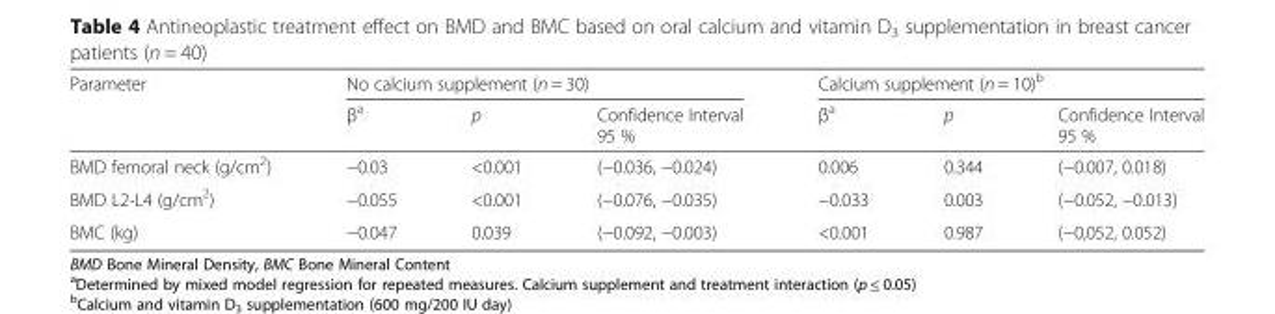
<table><thead><tr><td rowspan="2">Parameter</td><td colspan="3">No calcium supplement (n = 30)</td><td colspan="3">Calcium supplement (n = 10)<sup>b</sup></td></tr><tr><td>β<sup>a</sup></td><td>p</td><td>Confidence Interval 95 %</td><td>β<sup>a</sup></td><td>p</td><td>Confidence Interval 95 %</td></tr></thead><tbody><tr><td>BMD femoral neck (g/cm<sup>2</sup>)</td><td>−0.03</td><td>&lt;0.001</td><td>(−0.036, −0.024)</td><td>0.006</td><td>0.344</td><td>(−0.007, 0.018)</td></tr><tr><td>BMD L2-L4 (g/cm<sup>2</sup>)</td><td>−0.055</td><td>&lt;0.001</td><td>(−0.076, −0.035)</td><td>−0.033</td><td>0.003</td><td>(−0.052, −0.013)</td></tr><tr><td>BMC (kg)</td><td>−0.047</td><td>0.039</td><td>(−0.092, −0.003)</td><td>&lt;0.001</td><td>0.987</td><td>(−0,052, 0.052)</td></tr></tbody></table>